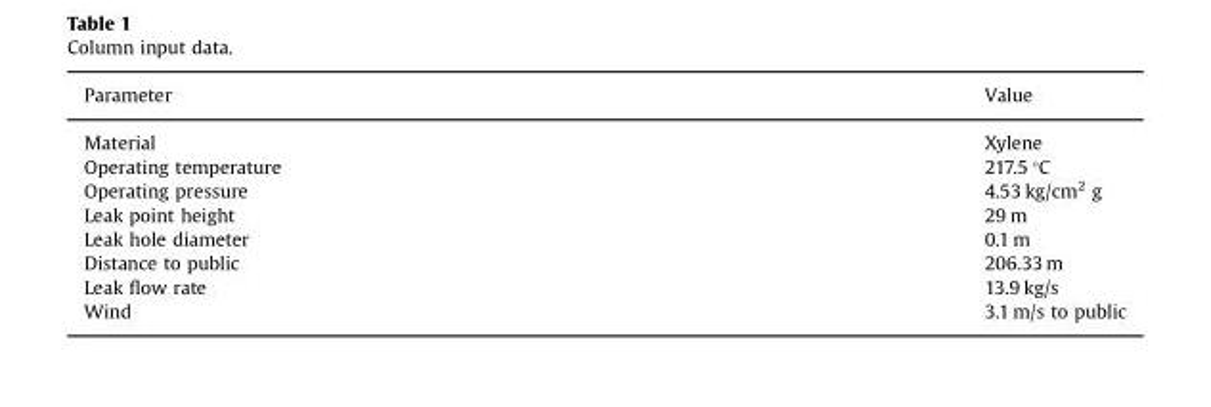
<table><thead><tr><td>Parameter</td><td>Value</td></tr></thead><tbody><tr><td>Material</td><td>Xylene</td></tr><tr><td>Operating temperature</td><td>217.5 °C</td></tr><tr><td>Operating pressure</td><td>4.53 kg/cm<sup>2</sup> g</td></tr><tr><td>Leak point height</td><td>29 m</td></tr><tr><td>Leak hole diameter</td><td>0.1 m</td></tr><tr><td>Distance to public</td><td>206.33 m</td></tr><tr><td>Leak flow rate</td><td>13.9 kg/s</td></tr><tr><td>Wind</td><td>3.1 m/s to public</td></tr></tbody></table>